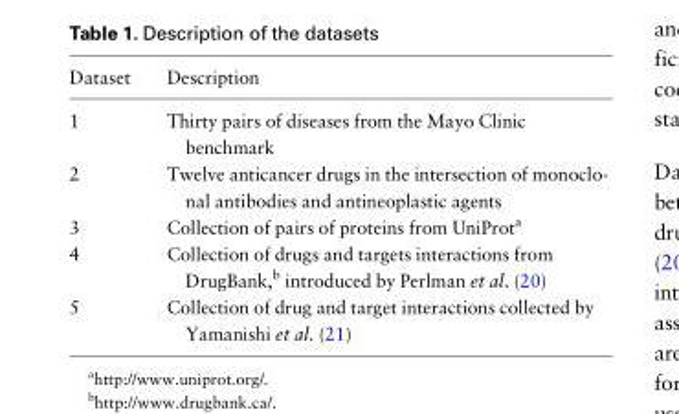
<table><thead><tr><td>Dataset</td><td>Description</td></tr></thead><tbody><tr><td>1</td><td>Thirty pairs of diseases from the Mayo Clinic benchmark</td></tr><tr><td>2</td><td>Twelve anticancer drugs in the intersection of monoclo- nal antibodies and antineoplastic agents</td></tr><tr><td>3</td><td>Collection of pairs of proteins from UniProt<sup>a</sup></td></tr><tr><td>4</td><td>Collection of drugs and targets interactions from DrugBank,<sup>b</sup> introduced by Perlman et al. (20)</td></tr><tr><td>5</td><td>Collection of drug and target interactions collected by Yamanishi et al. (21)</td></tr></tbody></table>